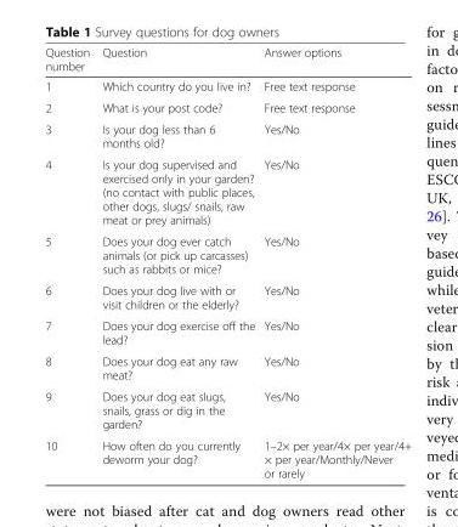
<table><thead><tr><td>Question number</td><td>Question</td><td>Answer options</td></tr></thead><tbody><tr><td>1</td><td>Which country do you live in?</td><td>Free text response</td></tr><tr><td>2</td><td>What is your post code?</td><td>Free text response</td></tr><tr><td>3</td><td>Is your dog less than 6 months old?</td><td>Yes/No</td></tr><tr><td>4</td><td>Is your dog supervised and exercised only in your garden? (no contact with public places, other dogs, slugs/ snails, raw meat or prey animals)</td><td>Yes/No</td></tr><tr><td>5</td><td>Does your dog ever catch animals (or pick up carcasses) such as rabbits or mice?</td><td>Yes/No</td></tr><tr><td>6</td><td>Does your dog live with or visit children or the elderly?</td><td>Yes/No</td></tr><tr><td>7</td><td>Does your dog exercise off the lead?</td><td>Yes/No</td></tr><tr><td>8</td><td>Does your dog eat any raw meat?</td><td>Yes/No</td></tr><tr><td>9</td><td>Does your dog eat slugs, snails, grass or dig in the garden?</td><td>Yes/No</td></tr><tr><td>10</td><td>How often do you currently deworm your dog?</td><td>1–2× per year/4× per year/4+ × per year/Monthly/Never or rarely</td></tr></tbody></table>